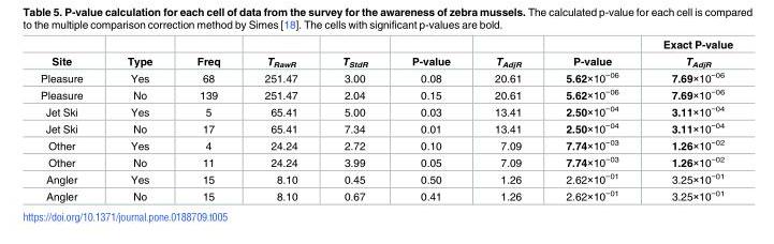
<table><thead><tr><td rowspan="2">Site</td><td rowspan="2">Type</td><td rowspan="2">Freq</td><td rowspan="2">T<sub>RawR</sub></td><td rowspan="2">T<sub>StdR</sub></td><td rowspan="2">P-value</td><td rowspan="2">T<sub>AdjR</sub></td><td rowspan="2">P-value</td><td rowspan="2">Exact P-value T<sub>AdjR</sub></td></tr><tr></tr></thead><tbody><tr><td>Pleasure</td><td>Yes</td><td>68</td><td>251.47</td><td>3.00</td><td>0.08</td><td>20.61</td><td>5.62×10<sup>−06</sup></td><td>7.69×10<sup>−06</sup></td></tr><tr><td>Pleasure</td><td>No</td><td>139</td><td>251.47</td><td>2.04</td><td>0.15</td><td>20.61</td><td>5.62×10<sup>−06</sup></td><td>7.69×10<sup>−06</sup></td></tr><tr><td>Jet Ski</td><td>Yes</td><td>5</td><td>65.41</td><td>5.00</td><td>0.03</td><td>13.41</td><td>2.50×10<sup>−04</sup></td><td>3.11×10<sup>−04</sup></td></tr><tr><td>Jet Ski</td><td>No</td><td>17</td><td>65.41</td><td>7.34</td><td>0.01</td><td>13.41</td><td>2.50×10<sup>−04</sup></td><td>3.11×10<sup>−04</sup></td></tr><tr><td>Other</td><td>Yes</td><td>4</td><td>24.24</td><td>2.72</td><td>0.10</td><td>7.09</td><td>7.74×10<sup>−03</sup></td><td>1.26×10<sup>−02</sup></td></tr><tr><td>Other</td><td>No</td><td>11</td><td>24.24</td><td>3.99</td><td>0.05</td><td>7.09</td><td>7.74×10<sup>−03</sup></td><td>1.26×10<sup>−02</sup></td></tr><tr><td>Angler</td><td>Yes</td><td>15</td><td>8.10</td><td>0.45</td><td>0.50</td><td>1.26</td><td>2.62×10<sup>−01</sup></td><td>3.25×10<sup>−01</sup></td></tr><tr><td>Angler</td><td>No</td><td>15</td><td>8.10</td><td>0.67</td><td>0.41</td><td>1.26</td><td>2.62×10<sup>−01</sup></td><td>3.25×10<sup>−01</sup></td></tr></tbody></table>